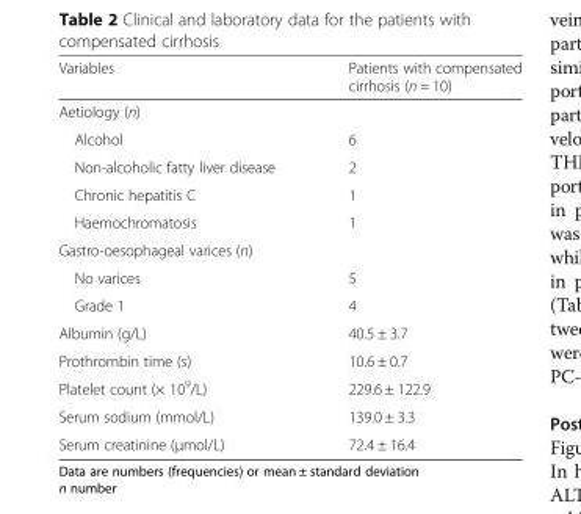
<table><thead><tr><td>Variables</td><td>Patients with compensated cirrhosis (n = 10)</td></tr></thead><tbody><tr><td colspan="2">Aetiology (n)</td></tr><tr><td>Alcohol</td><td>6</td></tr><tr><td>Non-alcoholic fatty liver disease</td><td>2</td></tr><tr><td>Chronic hepatitis C</td><td>1</td></tr><tr><td>Haemochromatosis</td><td>1</td></tr><tr><td colspan="2">Gastro-oesophageal varices (n)</td></tr><tr><td>No varices</td><td>5</td></tr><tr><td>Grade 1</td><td>4</td></tr><tr><td>Albumin (g/L)</td><td>40.5 ± 3.7</td></tr><tr><td>Prothrombin time (s)</td><td>10.6 ± 0.7</td></tr><tr><td>Platelet count (× 10<sup>9</sup>/L)</td><td>229.6 ± 122.9</td></tr><tr><td>Serum sodium (mmol/L)</td><td>139.0 ± 3.3</td></tr><tr><td>Serum creatinine (μmol/L)</td><td>72.4 ± 16.4</td></tr></tbody></table>